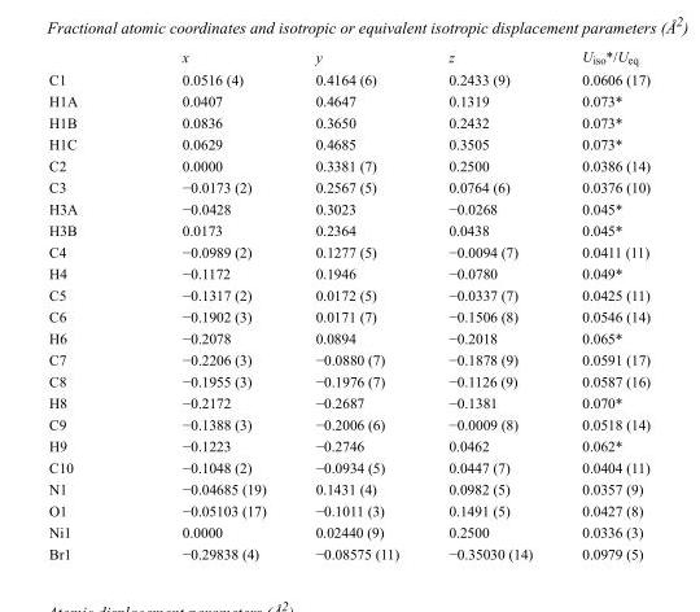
<table><thead><tr><td></td><td>x</td><td>y</td><td>z</td><td>U<sub>iso</sub>*/U<sub>eq</sub></td></tr></thead><tbody><tr><td>C1</td><td>0.0516 (4)</td><td>0.4164 (6)</td><td>0.2433 (9)</td><td>0.0606 (17)</td></tr><tr><td>H1A</td><td>0.0407</td><td>0.4647</td><td>0.1319</td><td>0.073*</td></tr><tr><td>H1B</td><td>0.0836</td><td>0.3650</td><td>0.2432</td><td>0.073*</td></tr><tr><td>H1C</td><td>0.0629</td><td>0.4685</td><td>0.3505</td><td>0.073*</td></tr><tr><td>C2</td><td>0.0000</td><td>0.3381 (7)</td><td>0.2500</td><td>0.0386 (14)</td></tr><tr><td>C3</td><td>−0.0173 (2)</td><td>0.2567 (5)</td><td>0.0764 (6)</td><td>0.0376 (10)</td></tr><tr><td>H3A</td><td>−0.0428</td><td>0.3023</td><td>−0.0268</td><td>0.045*</td></tr><tr><td>H3B</td><td>0.0173</td><td>0.2364</td><td>0.0438</td><td>0.045*</td></tr><tr><td>C4</td><td>−0.0989 (2)</td><td>0.1277 (5)</td><td>−0.0094 (7)</td><td>0.0411 (11)</td></tr><tr><td>H4</td><td>−0.1172</td><td>0.1946</td><td>−0.0780</td><td>0.049*</td></tr><tr><td>C5</td><td>−0.1317 (2)</td><td>0.0172 (5)</td><td>−0.0337 (7)</td><td>0.0425 (11)</td></tr><tr><td>C6</td><td>−0.1902 (3)</td><td>0.0171 (7)</td><td>−0.1506 (8)</td><td>0.0546 (14)</td></tr><tr><td>H6</td><td>−0.2078</td><td>0.0894</td><td>−0.2018</td><td>0.065*</td></tr><tr><td>C7</td><td>−0.2206 (3)</td><td>−0.0880 (7)</td><td>−0.1878 (9)</td><td>0.0591 (17)</td></tr><tr><td>C8</td><td>−0.1955 (3)</td><td>−0.1976 (7)</td><td>−0.1126 (9)</td><td>0.0587 (16)</td></tr><tr><td>H8</td><td>−0.2172</td><td>−0.2687</td><td>−0.1381</td><td>0.070*</td></tr><tr><td>C9</td><td>−0.1388 (3)</td><td>−0.2006 (6)</td><td>−0.0009 (8)</td><td>0.0518 (14)</td></tr><tr><td>H9</td><td>−0.1223</td><td>−0.2746</td><td>0.0462</td><td>0.062*</td></tr><tr><td>C10</td><td>−0.1048 (2)</td><td>−0.0934 (5)</td><td>0.0447 (7)</td><td>0.0404 (11)</td></tr><tr><td>N1</td><td>−0.04685 (19)</td><td>0.1431 (4)</td><td>0.0982 (5)</td><td>0.0357 (9)</td></tr><tr><td>O1</td><td>−0.05103 (17)</td><td>−0.1011 (3)</td><td>0.1491 (5)</td><td>0.0427 (8)</td></tr><tr><td>Ni1</td><td>0.0000</td><td>0.02440 (9)</td><td>0.2500</td><td>0.0336 (3)</td></tr><tr><td>Br1</td><td>−0.29838 (4)</td><td>−0.08575 (11)</td><td>−0.35030 (14)</td><td>0.0979 (5)</td></tr></tbody></table>